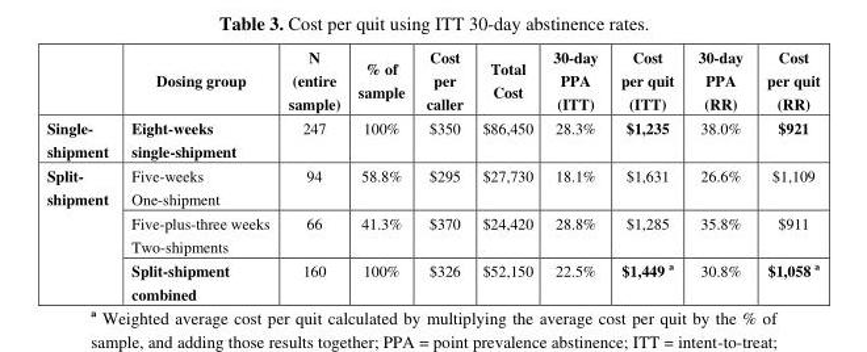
<table><thead><tr><td></td><td>Dosing group</td><td>N (entire sample)</td><td>% of sample</td><td>Cost per caller</td><td>Total Cost</td><td>30-day PPA (ITT)</td><td>Cost per quit (ITT)</td><td>30-day PPA (RR)</td><td>Cost per quit (RR)</td></tr></thead><tbody><tr><td>Single- shipment</td><td>Eight-weeks single-shipment</td><td>247</td><td>100%</td><td>$350</td><td>$86,450</td><td>28.3%</td><td>$1,235</td><td>38.0%</td><td>$921</td></tr><tr><td rowspan="3">Split- shipment</td><td>Five-weeks One-shipment</td><td>94</td><td>58.8%</td><td>$295</td><td>$27,730</td><td>18.1%</td><td>$1,631</td><td>26.6%</td><td>$1,109</td></tr><tr><td>Five-plus-three weeks Two-shipments</td><td>66</td><td>41.3%</td><td>$370</td><td>$24,420</td><td>28.8%</td><td>$1,285</td><td>35.8%</td><td>$911</td></tr><tr><td>Split-shipment combined</td><td>160</td><td>100%</td><td>$326</td><td>$52,150</td><td>22.5%</td><td>$1,449 <sup>a</sup></td><td>30.8%</td><td>$1,058 <sup>a</sup></td></tr></tbody></table>